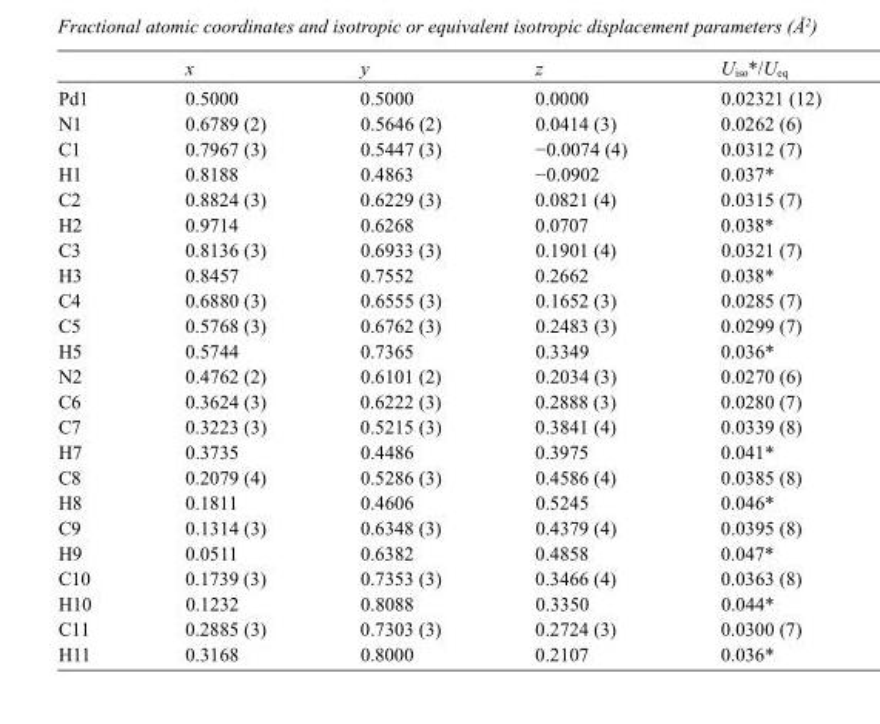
<table><thead><tr><td></td><td>x</td><td>y</td><td>z</td><td>U<sub>iso</sub>*/U<sub>eq</sub></td></tr></thead><tbody><tr><td>Pd1</td><td>0.5000</td><td>0.5000</td><td>0.0000</td><td>0.02321 (12)</td></tr><tr><td>N1</td><td>0.6789 (2)</td><td>0.5646 (2)</td><td>0.0414 (3)</td><td>0.0262 (6)</td></tr><tr><td>C1</td><td>0.7967 (3)</td><td>0.5447 (3)</td><td>−0.0074 (4)</td><td>0.0312 (7)</td></tr><tr><td>H1</td><td>0.8188</td><td>0.4863</td><td>−0.0902</td><td>0.037*</td></tr><tr><td>C2</td><td>0.8824 (3)</td><td>0.6229 (3)</td><td>0.0821 (4)</td><td>0.0315 (7)</td></tr><tr><td>H2</td><td>0.9714</td><td>0.6268</td><td>0.0707</td><td>0.038*</td></tr><tr><td>C3</td><td>0.8136 (3)</td><td>0.6933 (3)</td><td>0.1901 (4)</td><td>0.0321 (7)</td></tr><tr><td>H3</td><td>0.8457</td><td>0.7552</td><td>0.2662</td><td>0.038*</td></tr><tr><td>C4</td><td>0.6880 (3)</td><td>0.6555 (3)</td><td>0.1652 (3)</td><td>0.0285 (7)</td></tr><tr><td>C5</td><td>0.5768 (3)</td><td>0.6762 (3)</td><td>0.2483 (3)</td><td>0.0299 (7)</td></tr><tr><td>H5</td><td>0.5744</td><td>0.7365</td><td>0.3349</td><td>0.036*</td></tr><tr><td>N2</td><td>0.4762 (2)</td><td>0.6101 (2)</td><td>0.2034 (3)</td><td>0.0270 (6)</td></tr><tr><td>C6</td><td>0.3624 (3)</td><td>0.6222 (3)</td><td>0.2888 (3)</td><td>0.0280 (7)</td></tr><tr><td>C7</td><td>0.3223 (3)</td><td>0.5215 (3)</td><td>0.3841 (4)</td><td>0.0339 (8)</td></tr><tr><td>H7</td><td>0.3735</td><td>0.4486</td><td>0.3975</td><td>0.041*</td></tr><tr><td>C8</td><td>0.2079 (4)</td><td>0.5286 (3)</td><td>0.4586 (4)</td><td>0.0385 (8)</td></tr><tr><td>H8</td><td>0.1811</td><td>0.4606</td><td>0.5245</td><td>0.046*</td></tr><tr><td>C9</td><td>0.1314 (3)</td><td>0.6348 (3)</td><td>0.4379 (4)</td><td>0.0395 (8)</td></tr><tr><td>H9</td><td>0.0511</td><td>0.6382</td><td>0.4858</td><td>0.047*</td></tr><tr><td>C10</td><td>0.1739 (3)</td><td>0.7353 (3)</td><td>0.3466 (4)</td><td>0.0363 (8)</td></tr><tr><td>H10</td><td>0.1232</td><td>0.8088</td><td>0.3350</td><td>0.044*</td></tr><tr><td>C11</td><td>0.2885 (3)</td><td>0.7303 (3)</td><td>0.2724 (3)</td><td>0.0300 (7)</td></tr><tr><td>H11</td><td>0.3168</td><td>0.8000</td><td>0.2107</td><td>0.036*</td></tr></tbody></table>